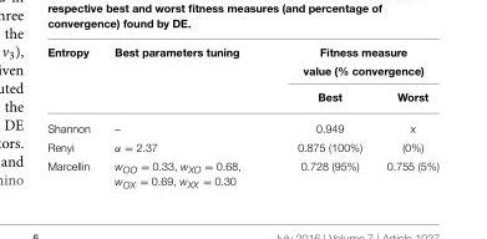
<table><thead><tr><td rowspan="2">Entropy</td><td rowspan="2">Best parameters tuning</td><td colspan="2">Fitness measure value (% convergence)</td></tr><tr><td>Best</td><td>Worst</td></tr></thead><tbody><tr><td>Shannon</td><td>–</td><td>0.949</td><td>x</td></tr><tr><td>Renyi</td><td>α = 2.37</td><td>0.875 (100%)</td><td>(0%)</td></tr><tr><td>Marcellin</td><td>w<sub>OO</sub> = 0.33, w<sub>XO</sub> = 0.68, w<sub>OX</sub> = 0.69, w<sub>XX</sub> = 0.30</td><td>0.728 (95%)</td><td>0.755 (5%)</td></tr></tbody></table>